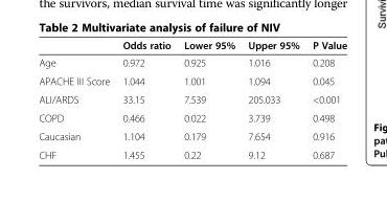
<table><thead><tr><td></td><td>Odds ratio</td><td>Lower 95%</td><td>Upper 95%</td><td>P Value</td></tr></thead><tbody><tr><td>Age</td><td>0.972</td><td>0.925</td><td>1.016</td><td>0.208</td></tr><tr><td>APACHE III Score</td><td>1.044</td><td>1.001</td><td>1.094</td><td>0.045</td></tr><tr><td>ALI/ARDS</td><td>33.15</td><td>7.539</td><td>205.033</td><td>&lt;0.001</td></tr><tr><td>COPD</td><td>0.466</td><td>0.022</td><td>3.739</td><td>0.498</td></tr><tr><td>Caucasian</td><td>1.104</td><td>0.179</td><td>7.654</td><td>0.916</td></tr><tr><td>CHF</td><td>1.455</td><td>0.22</td><td>9.12</td><td>0.687</td></tr></tbody></table>